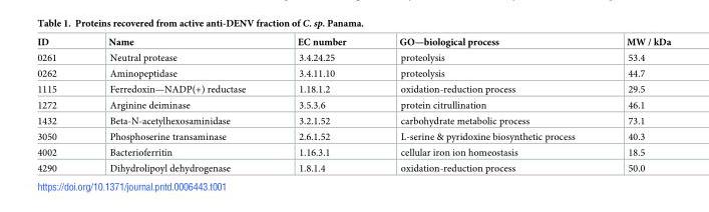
<table><thead><tr><td>ID</td><td>Name</td><td>EC number</td><td>GO—biological process</td><td>MW / kDa</td></tr></thead><tbody><tr><td>0261</td><td>Neutral protease</td><td>3.4.24.25</td><td>proteolysis</td><td>53.4</td></tr><tr><td>0262</td><td>Aminopeptidase</td><td>3.4.11.10</td><td>proteolysis</td><td>44.7</td></tr><tr><td>1115</td><td>Ferredoxin—NADP(+) reductase</td><td>1.18.1.2</td><td>oxidation-reduction process</td><td>29.5</td></tr><tr><td>1272</td><td>Arginine deiminase</td><td>3.5.3.6</td><td>protein citrullination</td><td>46.1</td></tr><tr><td>1432</td><td>Beta-N-acetylhexosaminidase</td><td>3.2.1.52</td><td>carbohydrate metabolic process</td><td>73.1</td></tr><tr><td>3050</td><td>Phosphoserine transaminase</td><td>2.6.1.52</td><td>L-serine &amp; pyridoxine biosynthetic process</td><td>40.3</td></tr><tr><td>4002</td><td>Bacterioferritin</td><td>1.16.3.1</td><td>cellular iron ion homeostasis</td><td>18.5</td></tr><tr><td>4290</td><td>Dihydrolipoyl dehydrogenase</td><td>1.8.1.4</td><td>oxidation-reduction process</td><td>50.0</td></tr></tbody></table>